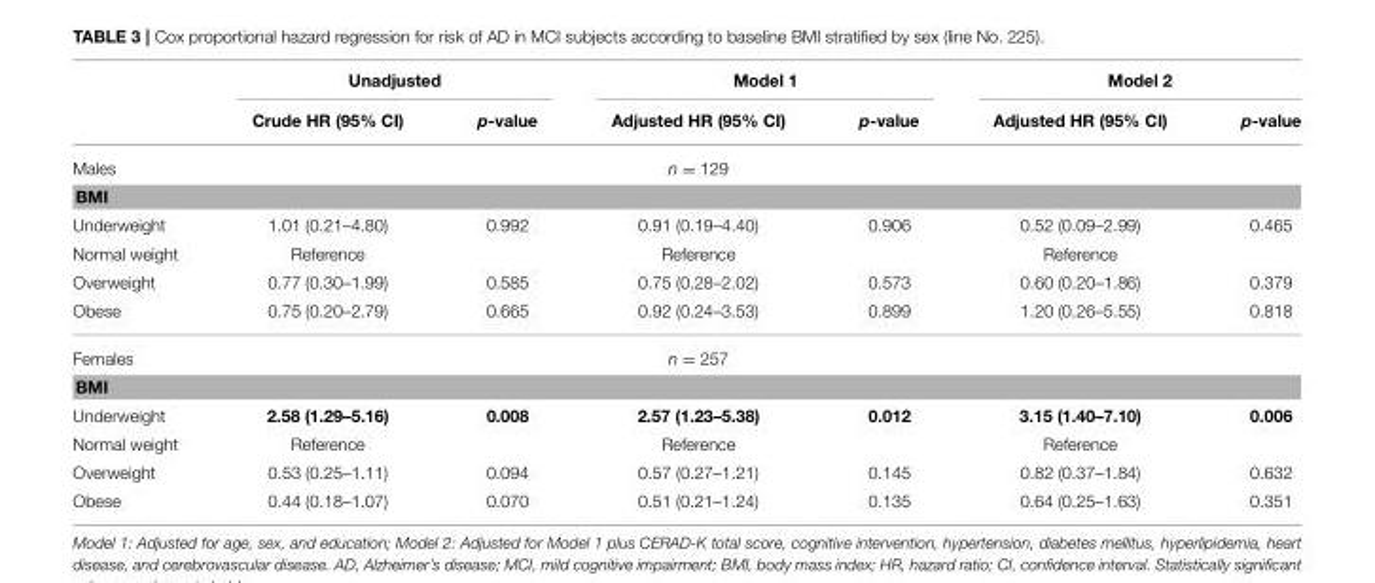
<table><thead><tr><td rowspan="2"></td><td colspan="2">Unadjusted</td><td colspan="2">Model 1</td><td colspan="2">Model 2</td></tr><tr><td>Crude HR (95% CI)</td><td>p-value</td><td>Adjusted HR (95% CI)</td><td>p-value</td><td>Adjusted HR (95% CI)</td><td>p-value</td></tr></thead><tbody><tr><td>Males</td><td></td><td></td><td>n = 129</td><td></td><td></td><td></td></tr><tr><td colspan="7">BMI</td></tr><tr><td>Underweight</td><td>1.01 (0.21–4.80)</td><td>0.992</td><td>0.91 (0.19–4.40)</td><td>0.906</td><td>0.52 (0.09–2.99)</td><td>0.465</td></tr><tr><td>Normal weight</td><td>Reference</td><td></td><td>Reference</td><td></td><td>Reference</td><td></td></tr><tr><td>Overweight</td><td>0.77 (0.30–1.99)</td><td>0.585</td><td>0.75 (0.28–2.02)</td><td>0.573</td><td>0.60 (0.20–1.86)</td><td>0.379</td></tr><tr><td>Obese</td><td>0.75 (0.20–2.79)</td><td>0.665</td><td>0.92 (0.24–3.53)</td><td>0.899</td><td>1.20 (0.26–5.55)</td><td>0.818</td></tr><tr><td>Females</td><td></td><td></td><td>n = 257</td><td></td><td></td><td></td></tr><tr><td colspan="7">BMI</td></tr><tr><td>Underweight</td><td>2.58 (1.29–5.16)</td><td>0.008</td><td>2.57 (1.23–5.38)</td><td>0.012</td><td>3.15 (1.40–7.10)</td><td>0.006</td></tr><tr><td>Normal weight</td><td>Reference</td><td></td><td>Reference</td><td></td><td>Reference</td><td></td></tr><tr><td>Overweight</td><td>0.53 (0.25–1.11)</td><td>0.094</td><td>0.57 (0.27–1.21)</td><td>0.145</td><td>0.82 (0.37–1.84)</td><td>0.632</td></tr><tr><td>Obese</td><td>0.44 (0.18–1.07)</td><td>0.070</td><td>0.51 (0.21–1.24)</td><td>0.135</td><td>0.64 (0.25–1.63)</td><td>0.351</td></tr></tbody></table>